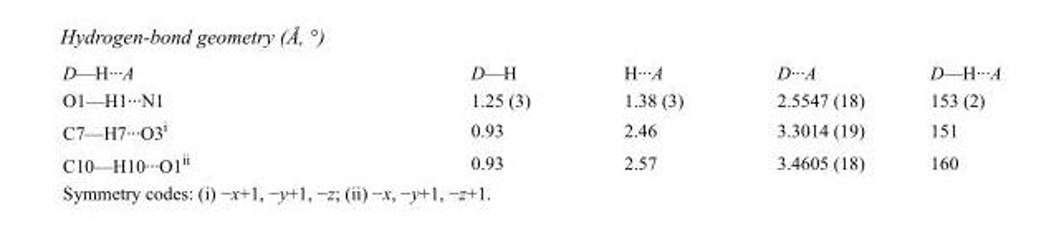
<table><tbody><tr><td>D—H···A</td><td>D—H</td><td>H···A</td><td>D···A</td><td>D—H···A</td></tr><tr><td>O1—H1···N1</td><td>1.25 (3)</td><td>1.38 (3)</td><td>2.5547 (18)</td><td>153 (2)</td></tr><tr><td>C7—H7···O3<sup>i</sup></td><td>0.93</td><td>2.46</td><td>3.3014 (19)</td><td>151</td></tr><tr><td>C10—H10···O1<sup>ii</sup></td><td>0.93</td><td>2.57</td><td>3.4605 (18)</td><td>160</td></tr></tbody></table>